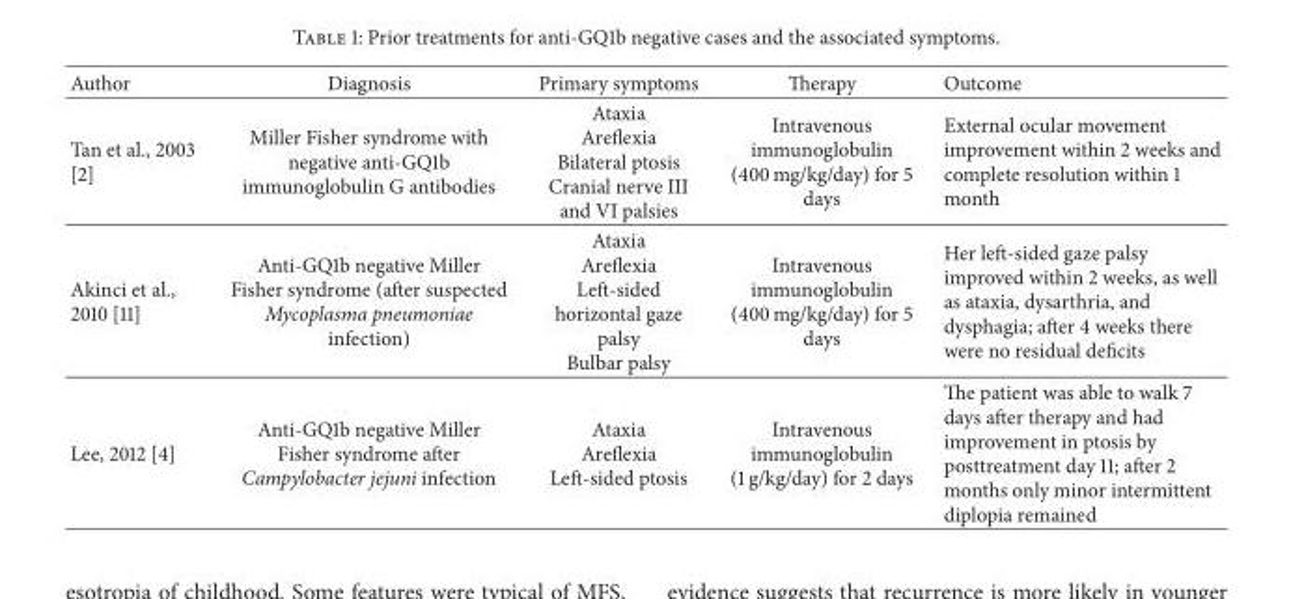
<table><thead><tr><td>Author</td><td>Diagnosis</td><td>Primary symptoms</td><td>Therapy</td><td>Outcome</td></tr></thead><tbody><tr><td>Tan et al., 2003 [2]</td><td>Miller Fisher syndrome with negative anti-GQ1b immunoglobulin G antibodies</td><td>Ataxia Areflexia Bilateral ptosis Cranial nerve III and VI palsies</td><td>Intravenous immunoglobulin (400 mg/kg/day) for 5 days</td><td>External ocular movement improvement within 2 weeks and complete resolution within 1 month</td></tr><tr><td>Akinci et al., 2010 [11]</td><td>Anti-GQ1b negative Miller Fisher syndrome (after suspected Mycoplasma pneumoniae infection)</td><td>Ataxia Areflexia Left-sided horizontal gaze palsy Bulbar palsy</td><td>Intravenous immunoglobulin (400 mg/kg/day) for 5 days</td><td>Her left-sided gaze palsy improved within 2 weeks, as well as ataxia, dysarthria, and dysphagia; after 4 weeks there were no residual deficits</td></tr><tr><td>Lee, 2012 [4]</td><td>Anti-GQ1b negative Miller Fisher syndrome after Campylobacter jejuni infection</td><td>Ataxia Areflexia Left-sided ptosis</td><td>Intravenous immunoglobulin (1 g/kg/day) for 2 days</td><td>The patient was able to walk 7 days after therapy and had improvement in ptosis by posttreatment day 11; after 2 months only minor intermittent diplopia remained</td></tr></tbody></table>